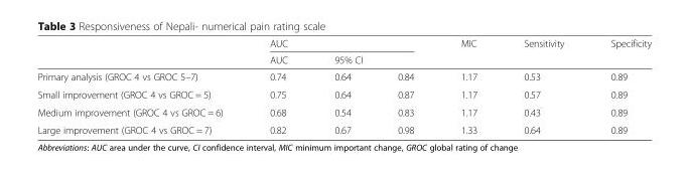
<table><thead><tr><td rowspan="3">Primary analysis (GROC 4 vs GROC 5–7)</td><td colspan="3">AUC</td><td rowspan="3">MIC 1.17</td><td rowspan="3">Sensitivity 0.53</td><td rowspan="3">Specificity 0.89</td></tr><tr><td rowspan="2">AUC 0.74</td><td colspan="2">95% CI</td></tr><tr><td>0.64</td><td>0.84</td></tr></thead><tbody><tr><td>Small improvement (GROC 4 vs GROC = 5)</td><td>0.75</td><td>0.64</td><td>0.87</td><td>1.17</td><td>0.57</td><td>0.89</td></tr><tr><td>Medium improvement (GROC 4 vs GROC = 6)</td><td>0.68</td><td>0.54</td><td>0.83</td><td>1.17</td><td>0.43</td><td>0.89</td></tr><tr><td>Large improvement (GROC 4 vs GROC = 7)</td><td>0.82</td><td>0.67</td><td>0.98</td><td>1.33</td><td>0.64</td><td>0.89</td></tr></tbody></table>